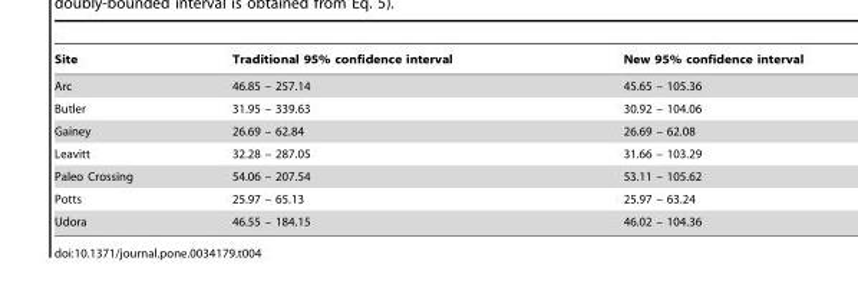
<table><thead><tr><td>Site</td><td>Traditional 95% confidence interval</td><td>New 95% confidence interval</td></tr></thead><tbody><tr><td>Arc</td><td>46.85 – 257.14</td><td>45.65 – 105.36</td></tr><tr><td>Butler</td><td>31.95 – 339.63</td><td>30.92 – 104.06</td></tr><tr><td>Gainey</td><td>26.69 – 62.84</td><td>26.69 – 62.08</td></tr><tr><td>Leavitt</td><td>32.28 – 287.05</td><td>31.66 – 103.29</td></tr><tr><td>Paleo Crossing</td><td>54.06 – 207.54</td><td>53.11 – 105.62</td></tr><tr><td>Potts</td><td>25.97 – 65.13</td><td>25.97 – 63.24</td></tr><tr><td>Udora</td><td>46.55 – 184.15</td><td>46.02 – 104.36</td></tr></tbody></table>